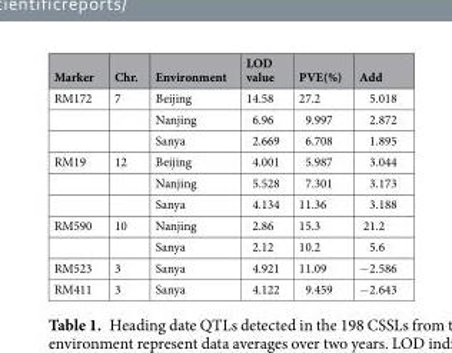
<table><thead><tr><td>Marker</td><td>Chr.</td><td>Environment</td><td>LOD value</td><td>PVE(%)</td><td>Add</td></tr></thead><tbody><tr><td rowspan="3">RM172</td><td>7</td><td>Beijing</td><td>14.58</td><td>27.2</td><td>5.018</td></tr><tr><td></td><td>Nanjing</td><td>6.96</td><td>9.997</td><td>2.872</td></tr><tr><td></td><td>Sanya</td><td>2.669</td><td>6.708</td><td>1.895</td></tr><tr><td rowspan="3">RM19</td><td>12</td><td>Beijing</td><td>4.001</td><td>5.987</td><td>3.044</td></tr><tr><td></td><td>Nanjing</td><td>5.528</td><td>7.301</td><td>3.173</td></tr><tr><td></td><td>Sanya</td><td>4.134</td><td>11.36</td><td>3.188</td></tr><tr><td rowspan="2">RM590</td><td>10</td><td>Nanjing</td><td>2.86</td><td>15.3</td><td>21.2</td></tr><tr><td></td><td>Sanya</td><td>2.12</td><td>10.2</td><td>5.6</td></tr><tr><td>RM523</td><td>3</td><td>Sanya</td><td>4.921</td><td>11.09</td><td>−2.586</td></tr><tr><td>RM411</td><td>3</td><td>Sanya</td><td>4.122</td><td>9.459</td><td>−2.643</td></tr></tbody></table>